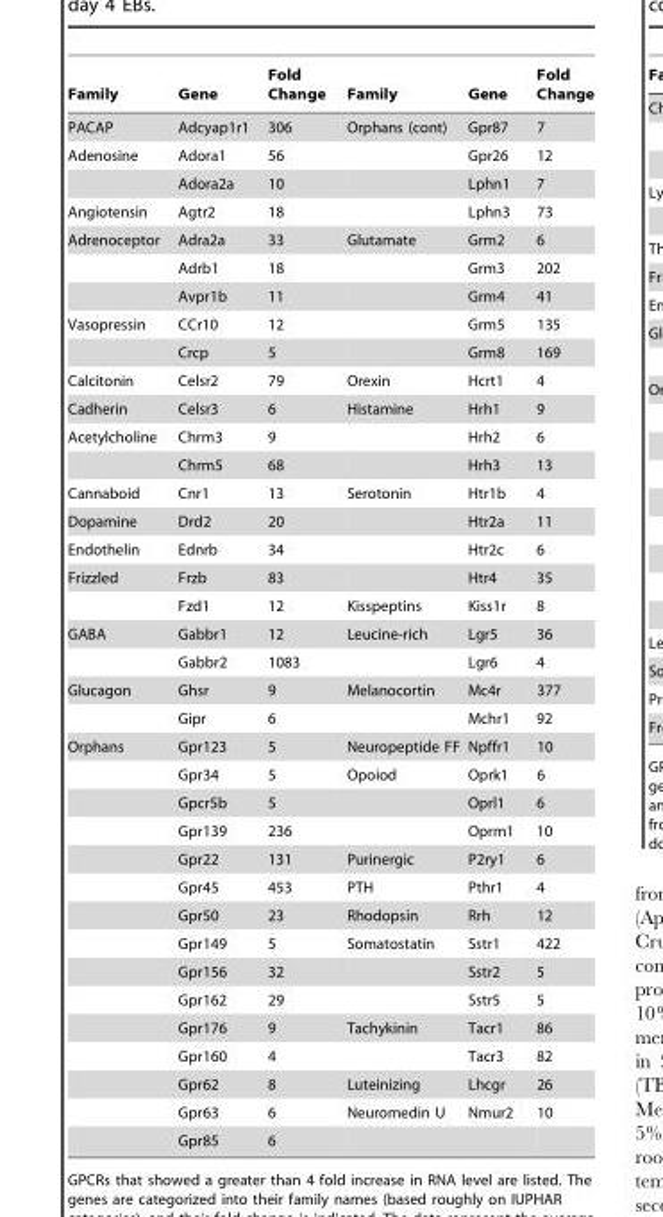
<table><thead><tr><td>Family</td><td>Gene</td><td>Fold Change</td><td>Family</td><td>Gene</td><td>Fold Change</td></tr></thead><tbody><tr><td>PACAP</td><td>Adcyap1r1</td><td>306</td><td>Orphans (cont)</td><td>Gpr87</td><td>7</td></tr><tr><td rowspan="2">Adenosine</td><td>Adora1</td><td>56</td><td></td><td>Gpr26</td><td>12</td></tr><tr><td>Adora2a</td><td>10</td><td></td><td>Lphn1</td><td>7</td></tr><tr><td>Angiotensin</td><td>Agtr2</td><td>18</td><td></td><td>Lphn3</td><td>73</td></tr><tr><td rowspan="3">Adrenoceptor</td><td>Adra2a</td><td>33</td><td>Glutamate</td><td>Grm2</td><td>6</td></tr><tr><td>Adrb1</td><td>18</td><td></td><td>Grm3</td><td>202</td></tr><tr><td>Avpr1b</td><td>11</td><td></td><td>Grm4</td><td>41</td></tr><tr><td rowspan="2">Vasopressin</td><td>CCr10</td><td>12</td><td></td><td>Grm5</td><td>135</td></tr><tr><td>Crcp</td><td>5</td><td></td><td>Grm8</td><td>169</td></tr><tr><td>Calcitonin</td><td>Celsr2</td><td>79</td><td>Orexin</td><td>Hcrt1</td><td>4</td></tr><tr><td>Cadherin</td><td>Celsr3</td><td>6</td><td>Histamine</td><td>Hrh1</td><td>9</td></tr><tr><td rowspan="2">Acetylcholine</td><td>Chrm3</td><td>9</td><td></td><td>Hrh2</td><td>6</td></tr><tr><td>Chrm5</td><td>68</td><td></td><td>Hrh3</td><td>13</td></tr><tr><td>Cannaboid</td><td>Cnr1</td><td>13</td><td>Serotonin</td><td>Htr1b</td><td>4</td></tr><tr><td>Dopamine</td><td>Drd2</td><td>20</td><td></td><td>Htr2a</td><td>11</td></tr><tr><td>Endothelin</td><td>Ednrb</td><td>34</td><td></td><td>Htr2c</td><td>6</td></tr><tr><td rowspan="2">Frizzled</td><td>Frzb</td><td>83</td><td></td><td>Htr4</td><td>35</td></tr><tr><td>Fzd1</td><td>12</td><td>Kisspeptins</td><td>Kiss1r</td><td>8</td></tr><tr><td rowspan="2">GABA</td><td>Gabbr1</td><td>12</td><td>Leucine-rich</td><td>Lgr5</td><td>36</td></tr><tr><td>Gabbr2</td><td>1083</td><td></td><td>Lgr6</td><td>4</td></tr><tr><td rowspan="2">Glucagon</td><td>Ghsr</td><td>9</td><td>Melanocortin</td><td>Mc4r</td><td>377</td></tr><tr><td>Gipr</td><td>6</td><td></td><td>Mchr1</td><td>92</td></tr><tr><td rowspan="15">Orphans</td><td>Gpr123</td><td>5</td><td>Neuropeptide FF</td><td>Npffr1</td><td>10</td></tr><tr><td>Gpr34</td><td>5</td><td>Opoiod</td><td>Oprk1</td><td>6</td></tr><tr><td>Gpcr5b</td><td>5</td><td></td><td>Oprl1</td><td>6</td></tr><tr><td>Gpr139</td><td>236</td><td></td><td>Oprm1</td><td>10</td></tr><tr><td>Gpr22</td><td>131</td><td>Purinergic</td><td>P2ry1</td><td>6</td></tr><tr><td>Gpr45</td><td>453</td><td>PTH</td><td>Pthr1</td><td>4</td></tr><tr><td>Gpr50</td><td>23</td><td>Rhodopsin</td><td>Rrh</td><td>12</td></tr><tr><td>Gpr149</td><td>5</td><td>Somatostatin</td><td>Sstr1</td><td>422</td></tr><tr><td>Gpr156</td><td>32</td><td></td><td>Sstr2</td><td>5</td></tr><tr><td>Gpr162</td><td>29</td><td></td><td>Sstr5</td><td>5</td></tr><tr><td>Gpr176</td><td>9</td><td>Tachykinin</td><td>Tacr1</td><td>86</td></tr><tr><td>Gpr160</td><td>4</td><td></td><td>Tacr3</td><td>82</td></tr><tr><td>Gpr62</td><td>8</td><td>Luteinizing</td><td>Lhcgr</td><td>26</td></tr><tr><td>Gpr63</td><td>6</td><td>Neuromedin U</td><td>Nmur2</td><td>10</td></tr><tr><td>Gpr85</td><td>6</td><td></td><td></td><td></td></tr></tbody></table>